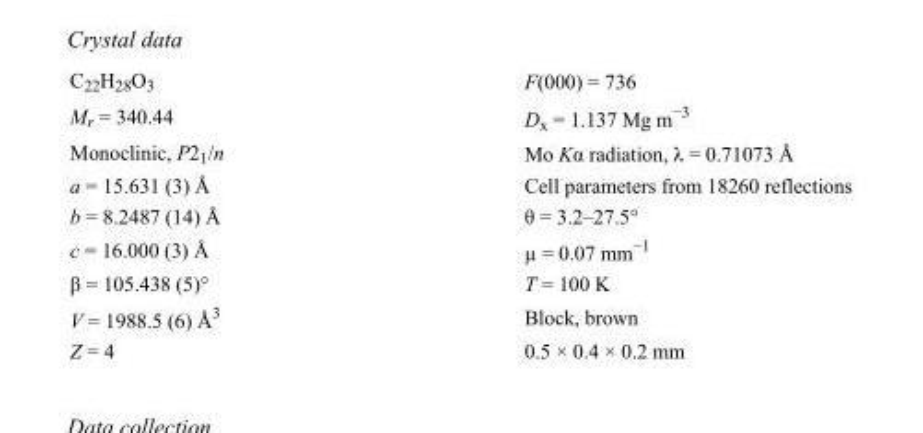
<table><tbody><tr><td>C<sub>22</sub>H<sub>28</sub>O<sub>3</sub></td><td>F(000) = 736</td></tr><tr><td>M<sub>r</sub> = 340.44</td><td>D<sub>x</sub> = 1.137 Mg m<sup>−3</sup></td></tr><tr><td>Monoclinic, P2<sub>1</sub>/n</td><td>Mo Kα radiation, λ = 0.71073 Å</td></tr><tr><td>a = 15.631 (3) Å</td><td>Cell parameters from 18260 reflections</td></tr><tr><td>b = 8.2487 (14) Å</td><td>θ = 3.2–27.5°</td></tr><tr><td>c = 16.000 (3) Å</td><td>µ = 0.07 mm<sup>−1</sup></td></tr><tr><td>β = 105.438 (5)°</td><td>T = 100 K</td></tr><tr><td>V = 1988.5 (6) Å<sup>3</sup></td><td>Block, brown</td></tr><tr><td>Z = 4</td><td>0.5 × 0.4 × 0.2 mm</td></tr></tbody></table>